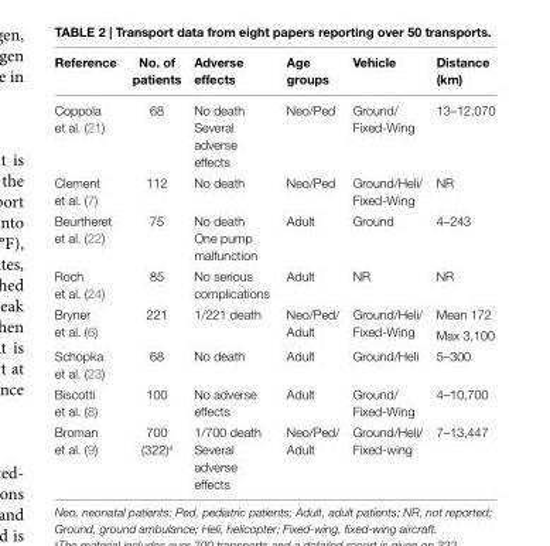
<table><thead><tr><td>Reference</td><td>No. of patients</td><td>Adverse effects</td><td>Age groups</td><td>vehicle</td><td>Distance (km)</td></tr></thead><tbody><tr><td rowspan="2">Coppola et al. (21)</td><td rowspan="2">68</td><td>No death</td><td rowspan="2">Neo/Ped</td><td rowspan="2">Ground/ Fixed-Wing</td><td rowspan="2">13–12,070</td></tr><tr><td>Several adverse effects</td></tr><tr><td>Clement et al. (7)</td><td>112</td><td>No death</td><td>Neo/Ped</td><td>Ground/Heli/ Fixed-Wing</td><td>NR</td></tr><tr><td rowspan="2">Beurtheret et al. (22)</td><td rowspan="2">75</td><td>No death</td><td rowspan="2">Adult</td><td rowspan="2">Ground</td><td rowspan="2">4–243</td></tr><tr><td>One pump malfunction</td></tr><tr><td>Roch et al. (24)</td><td>85</td><td>No serious complications</td><td>Adult</td><td>NR</td><td>NR</td></tr><tr><td rowspan="2">Bryner et al. (6)</td><td rowspan="2">221</td><td rowspan="2">1/221 death</td><td rowspan="2">Neo/Ped/ Adult</td><td rowspan="2">Ground/Heli/ Fixed-Wing</td><td>Mean 172</td></tr><tr><td>Max 3,100</td></tr><tr><td>Schopka et al. (23)</td><td>68</td><td>No death</td><td>Adult</td><td>Ground/Heli</td><td>5–300</td></tr><tr><td>Biscotti et al. (8)</td><td>100</td><td>No adverse effects</td><td>Adult</td><td>Ground/ Fixed-Wing</td><td>4–10,700</td></tr><tr><td rowspan="2">Broman et al. (9)</td><td rowspan="2">700 (322)<sup>a</sup></td><td>1/700 death</td><td rowspan="2">Neo/Ped/ Adult</td><td rowspan="2">Ground/Heli/ Fixed-wing</td><td rowspan="2">7–13,447</td></tr><tr><td>Several adverse effects</td></tr></tbody></table>